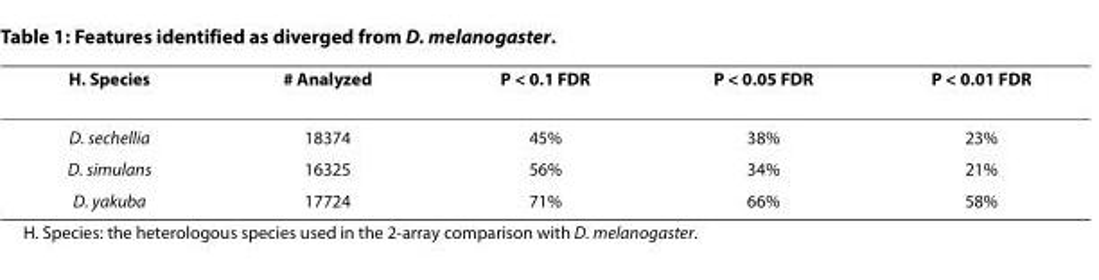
<table><thead><tr><td>H. Species</td><td># Analyzed</td><td>P &lt; 0.1 FDR</td><td>P &lt; 0.05 FDR</td><td>P &lt; 0.01 FDR</td></tr></thead><tbody><tr><td>D. sechellia</td><td>18374</td><td>45%</td><td>38%</td><td>23%</td></tr><tr><td>D. simulans</td><td>16325</td><td>56%</td><td>34%</td><td>21%</td></tr><tr><td>D. yakuba</td><td>17724</td><td>71%</td><td>66%</td><td>58%</td></tr></tbody></table>